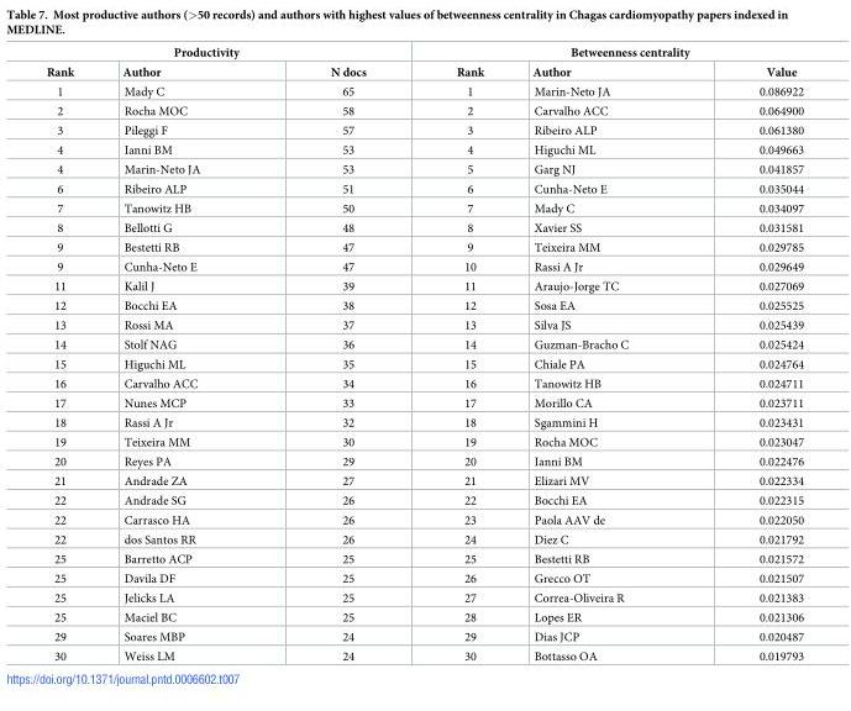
<table><thead><tr><td colspan="3">Productivity</td><td colspan="3">Betweenness centrality</td></tr><tr><td>Rank</td><td>Author</td><td>N docs</td><td>Rank</td><td>Author</td><td>Value</td></tr></thead><tbody><tr><td>1</td><td>Mady C</td><td>65</td><td>1</td><td>Marin-Neto JA</td><td>0.086922</td></tr><tr><td>2</td><td>Rocha MOC</td><td>58</td><td>2</td><td>Carvalho ACC</td><td>0.064900</td></tr><tr><td>3</td><td>Pileggi F</td><td>57</td><td>3</td><td>Ribeiro ALP</td><td>0.061380</td></tr><tr><td>4</td><td>Ianni BM</td><td>53</td><td>4</td><td>Higuchi ML</td><td>0.049663</td></tr><tr><td>4</td><td>Marin-Neto JA</td><td>53</td><td>5</td><td>Garg NJ</td><td>0.041857</td></tr><tr><td>6</td><td>Ribeiro ALP</td><td>51</td><td>6</td><td>Cunha-Neto E</td><td>0.035044</td></tr><tr><td>7</td><td>Tanowitz HB</td><td>50</td><td>7</td><td>Mady C</td><td>0.034097</td></tr><tr><td>8</td><td>Bellotti G</td><td>48</td><td>8</td><td>Xavier SS</td><td>0.031581</td></tr><tr><td>9</td><td>Bestetti RB</td><td>47</td><td>9</td><td>Teixeira MM</td><td>0.029785</td></tr><tr><td>9</td><td>Cunha-Neto E</td><td>47</td><td>10</td><td>Rassi A Jr</td><td>0.029649</td></tr><tr><td>11</td><td>Kalil J</td><td>39</td><td>11</td><td>Araujo-Jorge TC</td><td>0.027069</td></tr><tr><td>12</td><td>Bocchi EA</td><td>38</td><td>12</td><td>Sosa EA</td><td>0.025525</td></tr><tr><td>13</td><td>Rossi MA</td><td>37</td><td>13</td><td>Silva JS</td><td>0.025439</td></tr><tr><td>14</td><td>Stolf NAG</td><td>36</td><td>14</td><td>Guzman-Bracho C</td><td>0.025424</td></tr><tr><td>15</td><td>Higuchi ML</td><td>35</td><td>15</td><td>Chiale PA</td><td>0.024764</td></tr><tr><td>16</td><td>Carvalho ACC</td><td>34</td><td>16</td><td>Tanowitz HB</td><td>0.024711</td></tr><tr><td>17</td><td>Nunes MCP</td><td>33</td><td>17</td><td>Morillo CA</td><td>0.023711</td></tr><tr><td>18</td><td>Rassi A Jr</td><td>32</td><td>18</td><td>Sgammini H</td><td>0.023431</td></tr><tr><td>19</td><td>Teixeira MM</td><td>30</td><td>19</td><td>Rocha MOC</td><td>0.023047</td></tr><tr><td>20</td><td>Reyes PA</td><td>29</td><td>20</td><td>Ianni BM</td><td>0.022476</td></tr><tr><td>21</td><td>Andrade ZA</td><td>27</td><td>21</td><td>Elizari MV</td><td>0.022334</td></tr><tr><td>22</td><td>Andrade SG</td><td>26</td><td>22</td><td>Bocchi EA</td><td>0.022315</td></tr><tr><td>22</td><td>Carrasco HA</td><td>26</td><td>23</td><td>Paola AAV de</td><td>0.022050</td></tr><tr><td>22</td><td>dos Santos RR</td><td>26</td><td>24</td><td>Diez C</td><td>0.021792</td></tr><tr><td>25</td><td>Barretto ACP</td><td>25</td><td>25</td><td>Bestetti RB</td><td>0.021572</td></tr><tr><td>25</td><td>Davila DF</td><td>25</td><td>26</td><td>Grecco OT</td><td>0.021507</td></tr><tr><td>25</td><td>Jelicks LA</td><td>25</td><td>27</td><td>Correa-Oliveira R</td><td>0.021383</td></tr><tr><td>25</td><td>Maciel BC</td><td>25</td><td>28</td><td>Lopes ER</td><td>0.021306</td></tr><tr><td>29</td><td>Soares MBP</td><td>24</td><td>29</td><td>Dias JCP</td><td>0.020487</td></tr><tr><td>30</td><td>Weiss LM</td><td>24</td><td>30</td><td>Bottasso OA</td><td>0.019793</td></tr></tbody></table>